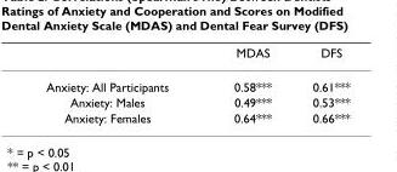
<table><thead><tr><td></td><td>MDAS</td><td>DFS</td></tr></thead><tbody><tr><td>Anxiety: All Participants</td><td>0.58***</td><td>0.61***</td></tr><tr><td>Anxiety: Males</td><td>0.49***</td><td>0.53***</td></tr><tr><td>Anxiety: Females</td><td>0.64***</td><td>0.66***</td></tr></tbody></table>